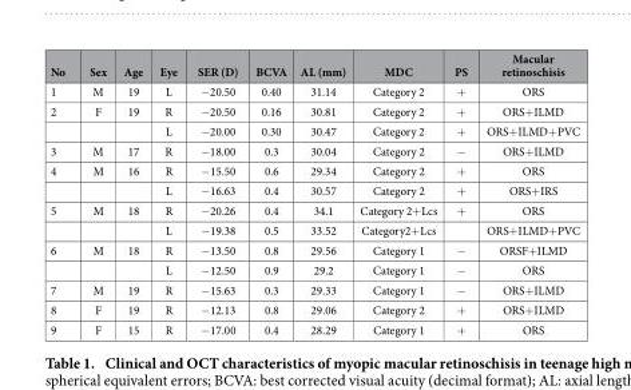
<table><thead><tr><td>No</td><td>Sex</td><td>Age</td><td>Eye</td><td>SER (D)</td><td>BCVA</td><td>AL (mm)</td><td>MDC</td><td>PS</td><td>Macular retinoschisis</td></tr></thead><tbody><tr><td>1</td><td>M</td><td>19</td><td>L</td><td>− 20.50</td><td>0.40</td><td>31.14</td><td>Category 2</td><td>+</td><td>ORS</td></tr><tr><td rowspan="2">2</td><td>F</td><td>19</td><td>R</td><td>− 20.50</td><td>0.16</td><td>30.81</td><td>Category 2</td><td>+</td><td>ORS+ ILMD</td></tr><tr><td></td><td></td><td>L</td><td>− 20.00</td><td>0.30</td><td>30.47</td><td>Category 2</td><td>+</td><td>ORS+ ILMD+ PVC</td></tr><tr><td>3</td><td>M</td><td>17</td><td>R</td><td>− 18.00</td><td>0.3</td><td>30.04</td><td>Category 2</td><td>−</td><td>ORS+ ILMD</td></tr><tr><td rowspan="2">4</td><td>M</td><td>16</td><td>R</td><td>− 15.50</td><td>0.6</td><td>29.34</td><td>Category 2</td><td>+</td><td>ORS</td></tr><tr><td></td><td></td><td>L</td><td>− 16.63</td><td>0.4</td><td>30.57</td><td>Category 2</td><td>+</td><td>ORS+ IRS</td></tr><tr><td rowspan="2">5</td><td>M</td><td>18</td><td>R</td><td>− 20.26</td><td>0.4</td><td>34.1</td><td>Category 2+ Lcs</td><td>+</td><td>ORS</td></tr><tr><td></td><td></td><td>L</td><td>− 19.38</td><td>0.5</td><td>33.52</td><td>Category2+ Lcs</td><td></td><td>ORS+ ILMD+ PVC</td></tr><tr><td rowspan="2">6</td><td>M</td><td>18</td><td>R</td><td>− 13.50</td><td>0.8</td><td>29.56</td><td>Category 1</td><td>−</td><td>ORSF+ ILMD</td></tr><tr><td></td><td></td><td>L</td><td>− 12.50</td><td>0.9</td><td>29.2</td><td>Category 1</td><td>−</td><td>ORS</td></tr><tr><td>7</td><td>M</td><td>19</td><td>R</td><td>− 15.63</td><td>0.3</td><td>29.33</td><td>Category 1</td><td>−</td><td>ORS+ ILMD</td></tr><tr><td>8</td><td>F</td><td>19</td><td>R</td><td>− 12.13</td><td>0.8</td><td>29.06</td><td>Category 2</td><td>+</td><td>ORS+ ILMD</td></tr><tr><td>9</td><td>F</td><td>15</td><td>R</td><td>− 17.00</td><td>0.4</td><td>28.29</td><td>Category 1</td><td>+</td><td>ORS</td></tr></tbody></table>